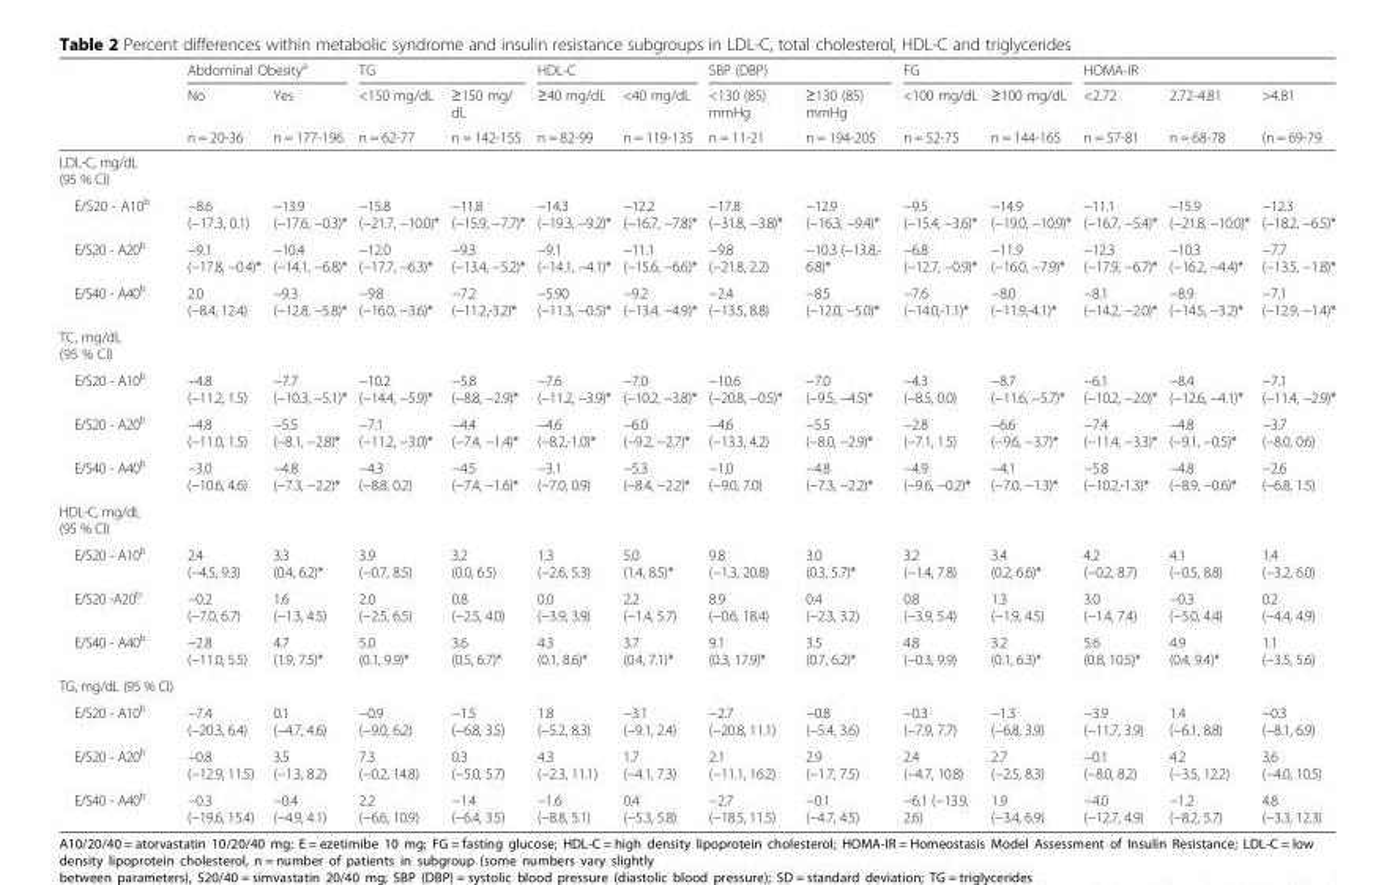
<table><thead><tr><td rowspan="3"></td><td colspan="2">Abdominal Obesity<sup>a</sup></td><td colspan="2">TG</td><td colspan="2">HDL-C</td><td colspan="2">SBP (DBP)</td><td colspan="2">FG</td><td colspan="3">HOMA-IR</td></tr><tr><td rowspan="2">No n = 20-36</td><td rowspan="2">Yes n = 177-196</td><td rowspan="2">&lt;150 mg/dL n = 62-77</td><td rowspan="2">≥150 mg/ dL n = 142-155</td><td rowspan="2">≥40 mg/dL n = 82-99</td><td rowspan="2">&lt;40 mg/dL n = 119-135</td><td rowspan="2">&lt;130 (85) mmHg n = 11-21</td><td rowspan="2">≥130 (85) mmHg n = 194-205</td><td rowspan="2">&lt;100 mg/dL n = 52-75</td><td rowspan="2">≥100 mg/dL n = 144-165</td><td rowspan="2">&lt;2.72 n = 57-81</td><td rowspan="2">2.72-4.81 n = 68-78</td><td rowspan="2">&gt;4.81 (n = 69-79</td></tr><tr></tr></thead><tbody><tr><td colspan="14">LDL-C, mg/dL (95 % CI)</td></tr><tr><td>E/S20 - A10<sup>b</sup></td><td>−8.6 (−17.3, 0.1)</td><td>−13.9 (−17.6, −0.3)*</td><td>−15.8 (−21.7, −10.0)*</td><td>−11.8 (−15.9, −7.7)*</td><td>−14.3 (−19.3, −9.2)*</td><td>−12.2 (−16.7, −7.8)*</td><td>−17.8 (−31.8, −3.8)*</td><td>−12.9 (−16.3, −9.4)*</td><td>−9.5 (−15.4, −3.6)*</td><td>−14.9 (−19.0, −10.9)*</td><td>−11.1 (−16.7, −5.4)*</td><td>−15.9 (−21.8, −10.0)*</td><td>−12.3 (−18.2, −6.5)*</td></tr><tr><td>E/S20 - A20<sup>b</sup></td><td>−9.1 (−17.8, −0.4)*</td><td>−10.4 (−14.1, −6.8)*</td><td>−12.0 (−17.7, −6.3)*</td><td>−9.3 (−13.4, −5.2)*</td><td>−9.1 (−14.1, −4.1)*</td><td>−11.1 (−15.6, −6.6)*</td><td>−9.8 (−21.8, 2.2)</td><td>−10.3 (−13.8,- 6.8)*</td><td>−6.8 (−12.7, −0.9)*</td><td>−11.9 (−16.0, −7.9)*</td><td>−12.3 (−17.9, −6.7)*</td><td>−10.3 (−16.2, −4.4)*</td><td>−7.7 (−13.5, −1.8)*</td></tr><tr><td>E/S40 - A40<sup>b</sup></td><td>2.0 (−8.4, 12.4)</td><td>−9.3 (−12.8, −5.8)*</td><td>−9.8 (−16.0, −3.6)*</td><td>−7.2 (−11.2,-3.2)*</td><td>−5.90 (−11.3, −0.5)*</td><td>−9.2 (−13.4, −4.9)*</td><td>−2.4 (−13.5, 8.8)</td><td>−8.5 (−12.0, −5.0)*</td><td>−7.6 (−14.0,-1.1)*</td><td>−8.0 (−11.9,-4.1)*</td><td>−8.1 (−14.2, −2.0)*</td><td>−8.9 (−14.5, −3.2)*</td><td>−7.1 (−12.9, −1.4)*</td></tr><tr><td colspan="14">TC, mg/dL (95 % CI)</td></tr><tr><td>E/S20 - A10<sup>b</sup></td><td>−4.8 (−11.2, 1.5)</td><td>−7.7 (−10.3, −5.1)*</td><td>−10.2 (−14.4, −5.9)*</td><td>−5.8 (−8.8, −2.9)*</td><td>−7.6 (−11.2, −3.9)*</td><td>−7.0 (−10.2, −3.8)*</td><td>−10.6 (−20.8, −0.5)*</td><td>−7.0 (−9.5, −4.5)*</td><td>−4.3 (−8.5, 0.0)</td><td>−8.7 (−11.6, −5.7)*</td><td>−6.1 (−10.2, −2.0)*</td><td>−8.4 (−12.6, −4.1)*</td><td>−7.1 (−11.4, −2.9)*</td></tr><tr><td>E/S20 - A20<sup>b</sup></td><td>−4.8 (−11.0, 1.5)</td><td>−5.5 (−8.1, −2.8)*</td><td>−7.1 (−11.2, −3.0)*</td><td>−4.4 (−7.4, −1.4)*</td><td>−4.6 (−8.2,-1.0)*</td><td>−6.0 (−9.2, −2.7)*</td><td>−4.6 (−13.3, 4.2)</td><td>−5.5 (−8.0, −2.9)*</td><td>−2.8 (−7.1, 1.5)</td><td>−6.6 (−9.6, −3.7)*</td><td>−7.4 (−11.4, −3.3)*</td><td>−4.8 (−9.1, −0.5)*</td><td>−3.7 (−8.0, 0.6)</td></tr><tr><td>E/S40 - A40<sup>b</sup></td><td>−3.0 (−10.6, 4.6)</td><td>−4.8 (−7.3, −2.2)*</td><td>−4.3 (−8.8, 0.2)</td><td>−4.5 (−7.4, −1.6)*</td><td>−3.1 (−7.0, 0.9)</td><td>−5.3 (−8.4, −2.2)*</td><td>−1.0 (−9.0, 7.0)</td><td>−4.8 (−7.3, −2.2)*</td><td>−4.9 (−9.6, −0.2)*</td><td>−4.1 (−7.0, −1.3)*</td><td>−5.8 (−10.2,-1.3)*</td><td>−4.8 (−8.9, −0.6)*</td><td>−2.6 (−6.8, 1.5)</td></tr><tr><td colspan="14">HDL-C, mg/dL (95 % CI)</td></tr><tr><td>E/S20 - A10<sup>b</sup></td><td>2.4 (−4.5, 9.3)</td><td>3.3 (0.4, 6.2)*</td><td>3.9 (−0.7, 8.5)</td><td>3.2 (0.0, 6.5)</td><td>1.3 (−2.6, 5.3)</td><td>5.0 (1.4, 8.5)*</td><td>9.8 (−1.3, 20.8)</td><td>3.0 (0.3, 5.7)*</td><td>3.2 (−1.4, 7.8)</td><td>3.4 (0.2, 6.6)*</td><td>4.2 (−0.2, 8.7)</td><td>4.1 (−0.5, 8.8)</td><td>1.4 (−3.2, 6.0)</td></tr><tr><td>E/S20 -A20<sup>b</sup></td><td>−0.2 (−7.0, 6.7)</td><td>1.6 (−1.3, 4.5)</td><td>2.0 (−2.5, 6.5)</td><td>0.8 (−2.5, 4.0)</td><td>0.0 (−3.9, 3.9)</td><td>2.2 (−1.4, 5.7)</td><td>8.9 (−0.6, 18.4)</td><td>0.4 (−2.3, 3.2)</td><td>0.8 (−3.9, 5.4)</td><td>1.3 (−1.9, 4.5)</td><td>3.0 (−1.4, 7.4)</td><td>−0.3 (−5.0, 4.4)</td><td>0.2 (−4.4, 4.9)</td></tr><tr><td>E/S40 - A40<sup>b</sup></td><td>−2.8 (−11.0, 5.5)</td><td>4.7 (1.9, 7.5)*</td><td>5.0 (0.1, 9.9)*</td><td>3.6 (0.5, 6.7)*</td><td>4.3 (0.1, 8.6)*</td><td>3.7 (0.4, 7.1)*</td><td>9.1 (0.3, 17.9)*</td><td>3.5 (0.7, 6.2)*</td><td>4.8 (−0.3, 9.9)</td><td>3.2 (0.1, 6.3)*</td><td>5.6 (0.8, 10.5)*</td><td>4.9 (0.4, 9.4)*</td><td>1.1 (−3.5, 5.6)</td></tr><tr><td colspan="14">TG, mg/dL (95 % CI)</td></tr><tr><td>E/S20 - A10<sup>b</sup></td><td>−7.4 (−20.3, 6.4)</td><td>0.1 (−4.7, 4.6)</td><td>−0.9 (−9.0, 6.2)</td><td>−1.5 (−6.8, 3.5)</td><td>1.8 (−5.2, 8.3)</td><td>−3.1 (−9.1, 2.4)</td><td>−2.7 (−20.8, 11.1)</td><td>−0.8 (−5.4, 3.6)</td><td>−0.3 (−7.9, 7.7)</td><td>−1.3 (−6.8, 3.9)</td><td>−3.9 (−11.7, 3.9)</td><td>1.4 (−6.1, 8.8)</td><td>−0.3 (−8.1, 6.9)</td></tr><tr><td>E/S20 - A20<sup>b</sup></td><td>−0.8 (−12.9, 11.5)</td><td>3.5 (−1.3, 8.2)</td><td>7.3 (−0.2, 14.8)</td><td>0.3 (−5.0, 5.7)</td><td>4.3 (−2.3, 11.1)</td><td>1.7 (−4.1, 7.3)</td><td>2.1 (−11.1, 16.2)</td><td>2.9 (−1.7, 7.5)</td><td>2.4 (−4.7, 10.8)</td><td>2.7 (−2.5, 8.3)</td><td>−0.1 (−8.0, 8.2)</td><td>4.2 (−3.5, 12.2)</td><td>3.6 (−4.0, 10.5)</td></tr><tr><td>E/S40 - A40<sup>b</sup></td><td>−0.3 (−19.6, 15.4)</td><td>−0.4 (−4.9, 4.1)</td><td>2.2 (−6.6, 10.9)</td><td>−1.4 (−6.4, 3.5)</td><td>−1.6 (−8.8, 5.1)</td><td>0.4 (−5.3, 5.8)</td><td>−2.7 (−18.5, 11.5)</td><td>−0.1 (−4.7, 4.5)</td><td>−6.1 (−13.9, 2.6)</td><td>1.9 (−3.4, 6.9)</td><td>−4.0 (−12.7, 4.9)</td><td>−1.2 (−8.2, 5.7)</td><td>4.8 (−3.3, 12.3)</td></tr></tbody></table>